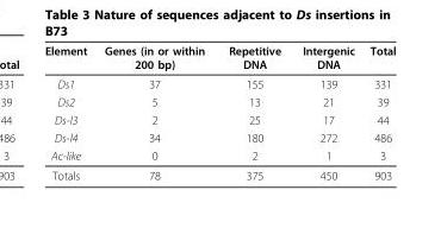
<table><thead><tr><td>Element</td><td>Genes (in or within 200 bp)</td><td>Repetitive DNA</td><td>Intergenic DNA</td><td>Total</td></tr></thead><tbody><tr><td>Ds1</td><td>37</td><td>155</td><td>139</td><td>331</td></tr><tr><td>Ds2</td><td>5</td><td>13</td><td>21</td><td>39</td></tr><tr><td>Ds-l3</td><td>2</td><td>25</td><td>17</td><td>44</td></tr><tr><td>Ds-l4</td><td>34</td><td>180</td><td>272</td><td>486</td></tr><tr><td>Ac-like</td><td>0</td><td>2</td><td>1</td><td>3</td></tr><tr><td>Totals</td><td>78</td><td>375</td><td>450</td><td>903</td></tr></tbody></table>